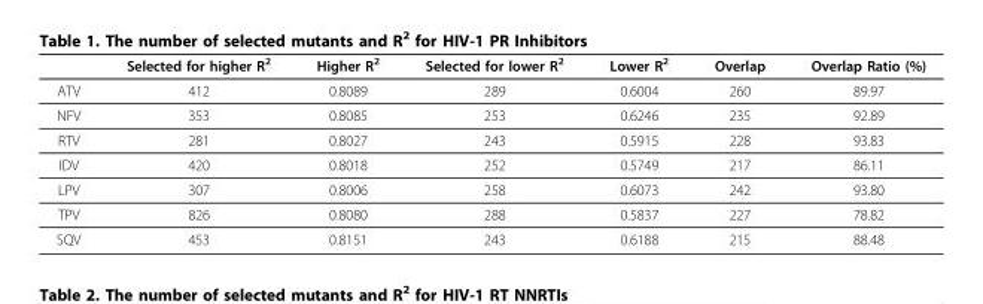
<table><thead><tr><td></td><td>Selected for higher R<sup>2</sup></td><td>Higher R<sup>2</sup></td><td>Selected for lower R<sup>2</sup></td><td>Lower R<sup>2</sup></td><td>Overlap</td><td>Overlap Ratio (%)</td></tr></thead><tbody><tr><td>ATV</td><td>412</td><td>0.8089</td><td>289</td><td>0.6004</td><td>260</td><td>89.97</td></tr><tr><td>NFV</td><td>353</td><td>0.8085</td><td>253</td><td>0.6246</td><td>235</td><td>92.89</td></tr><tr><td>RTV</td><td>281</td><td>0.8027</td><td>243</td><td>0.5915</td><td>228</td><td>93.83</td></tr><tr><td>IDV</td><td>420</td><td>0.8018</td><td>252</td><td>0.5749</td><td>217</td><td>86.11</td></tr><tr><td>LPV</td><td>307</td><td>0.8006</td><td>258</td><td>0.6073</td><td>242</td><td>93.80</td></tr><tr><td>TPV</td><td>826</td><td>0.8080</td><td>288</td><td>0.5837</td><td>227</td><td>78.82</td></tr><tr><td>SQV</td><td>453</td><td>0.8151</td><td>243</td><td>0.6188</td><td>215</td><td>88.48</td></tr></tbody></table>